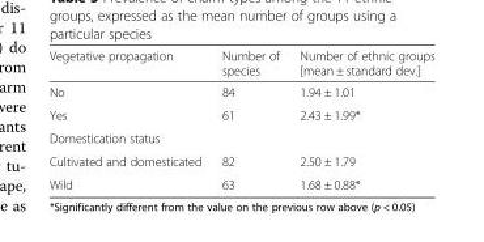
<table><thead><tr><td>Vegetative propagation</td><td>Number of species</td><td>Number of ethnic groups [mean ± standard dev.]</td></tr></thead><tbody><tr><td>No</td><td>84</td><td>1.94 ± 1.01</td></tr><tr><td>Yes</td><td>61</td><td>2.43 ± 1.99*</td></tr><tr><td colspan="3">Domestication status</td></tr><tr><td>Cultivated and domesticated</td><td>82</td><td>2.50 ± 1.79</td></tr><tr><td>Wild</td><td>63</td><td>1.68 ± 0.88*</td></tr></tbody></table>